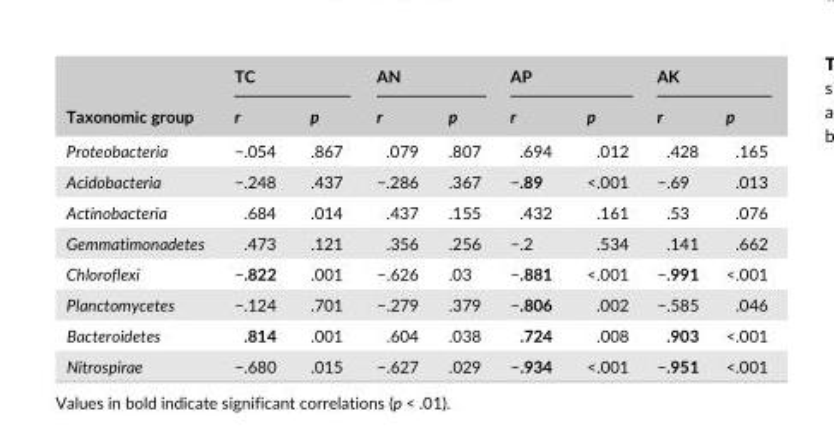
<table><thead><tr><td rowspan="2">Taxonomic group</td><td colspan="2">TC</td><td colspan="2">AN</td><td colspan="2">AP</td><td colspan="2">AK</td></tr><tr><td>r</td><td>p</td><td>r</td><td>p</td><td>r</td><td>p</td><td>r</td><td>p</td></tr></thead><tbody><tr><td>Proteobacteria</td><td>−.054</td><td>.867</td><td>.079</td><td>.807</td><td>.694</td><td>.012</td><td>.428</td><td>.165</td></tr><tr><td>Acidobacteria</td><td>−.248</td><td>.437</td><td>−.286</td><td>.367</td><td>−.89</td><td>&lt;.001</td><td>−.69</td><td>.013</td></tr><tr><td>Actinobacteria</td><td>.684</td><td>.014</td><td>.437</td><td>.155</td><td>.432</td><td>.161</td><td>.53</td><td>.076</td></tr><tr><td>Gemmatimonadetes</td><td>.473</td><td>.121</td><td>.356</td><td>.256</td><td>−.2</td><td>.534</td><td>.141</td><td>.662</td></tr><tr><td>Chloroflexi</td><td>−.822</td><td>.001</td><td>−.626</td><td>.03</td><td>−.881</td><td>&lt;.001</td><td>−.991</td><td>&lt;.001</td></tr><tr><td>Planctomycetes</td><td>−.124</td><td>.701</td><td>−.279</td><td>.379</td><td>−.806</td><td>.002</td><td>−.585</td><td>.046</td></tr><tr><td>Bacteroidetes</td><td>.814</td><td>.001</td><td>.604</td><td>.038</td><td>.724</td><td>.008</td><td>.903</td><td>&lt;.001</td></tr><tr><td>Nitrospirae</td><td>−.680</td><td>.015</td><td>−.627</td><td>.029</td><td>−.934</td><td>&lt;.001</td><td>−.951</td><td>&lt;.001</td></tr></tbody></table>